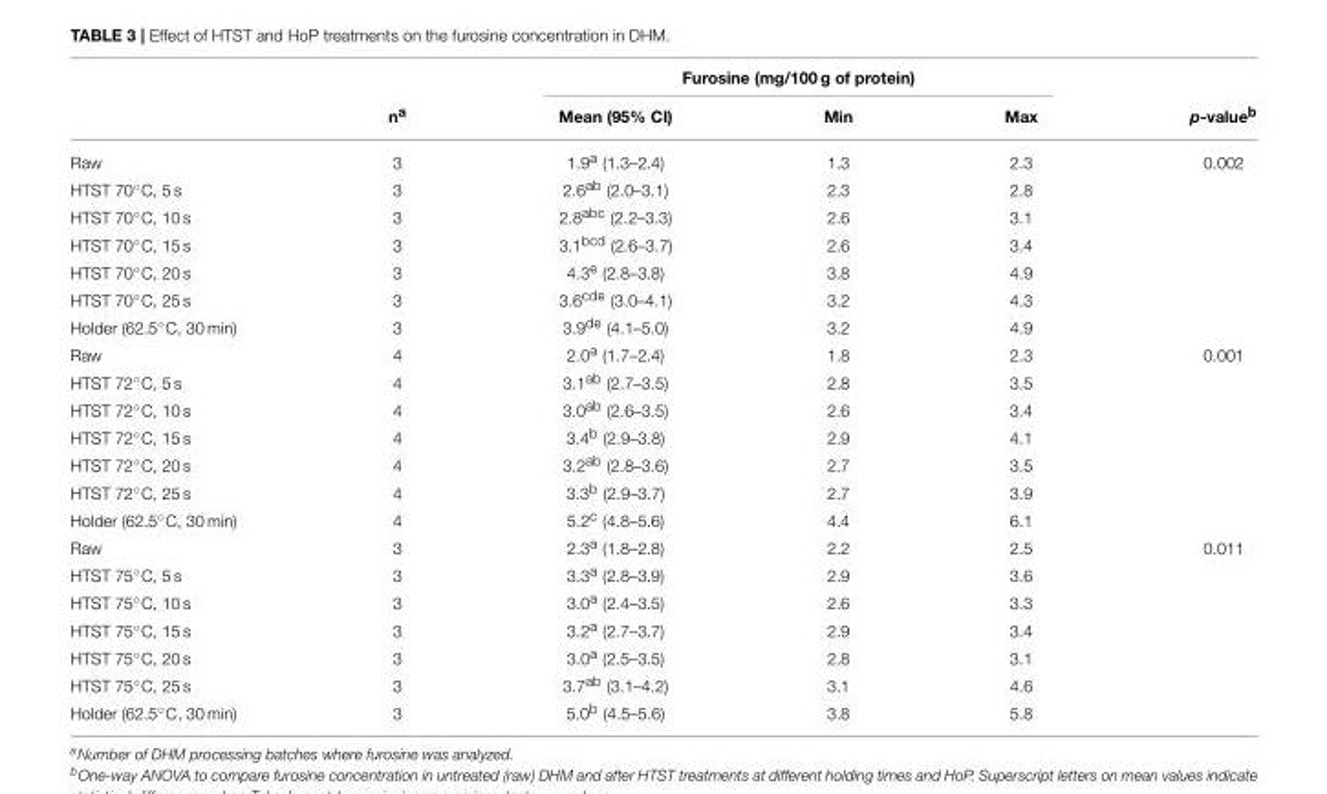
<table><thead><tr><td rowspan="2"></td><td rowspan="2">n<sup>a</sup></td><td colspan="3">Furosine (mg/100 g of protein)</td><td rowspan="2">p-value<sup>b</sup></td></tr><tr><td>Mean (95% CI)</td><td>Min</td><td>Max</td></tr></thead><tbody><tr><td>Raw</td><td>3</td><td>1.9<sup>a</sup> (1.3–2.4)</td><td>1.3</td><td>2.3</td><td>0.002</td></tr><tr><td>HTST 70◦C, 5 s</td><td>3</td><td>2.6<sup>ab</sup> (2.0–3.1)</td><td>2.3</td><td>2.8</td><td></td></tr><tr><td>HTST 70◦C, 10 s</td><td>3</td><td>2.8<sup>abc</sup> (2.2–3.3)</td><td>2.6</td><td>3.1</td><td></td></tr><tr><td>HTST 70◦C, 15 s</td><td>3</td><td>3.1<sup>bcd</sup> (2.6–3.7)</td><td>2.6</td><td>3.4</td><td></td></tr><tr><td>HTST 70◦C, 20 s</td><td>3</td><td>4.3<sup>e</sup> (2.8–3.8)</td><td>3.8</td><td>4.9</td><td></td></tr><tr><td>HTST 70◦C, 25 s</td><td>3</td><td>3.6<sup>cde</sup> (3.0–4.1)</td><td>3.2</td><td>4.3</td><td></td></tr><tr><td>Holder (62.5◦C, 30 min)</td><td>3</td><td>3.9<sup>de</sup> (4.1–5.0)</td><td>3.2</td><td>4.9</td><td></td></tr><tr><td>Raw</td><td>4</td><td>2.0<sup>a</sup> (1.7–2.4)</td><td>1.8</td><td>2.3</td><td>0.001</td></tr><tr><td>HTST 72◦C, 5 s</td><td>4</td><td>3.1<sup>ab</sup> (2.7–3.5)</td><td>2.8</td><td>3.5</td><td></td></tr><tr><td>HTST 72◦C, 10 s</td><td>4</td><td>3.0<sup>ab</sup> (2.6–3.5)</td><td>2.6</td><td>3.4</td><td></td></tr><tr><td>HTST 72◦C, 15 s</td><td>4</td><td>3.4<sup>b</sup> (2.9–3.8)</td><td>2.9</td><td>4.1</td><td></td></tr><tr><td>HTST 72◦C, 20 s</td><td>4</td><td>3.2<sup>ab</sup> (2.8–3.6)</td><td>2.7</td><td>3.5</td><td></td></tr><tr><td>HTST 72◦C, 25 s</td><td>4</td><td>3.3<sup>b</sup> (2.9–3.7)</td><td>2.7</td><td>3.9</td><td></td></tr><tr><td>Holder (62.5◦C, 30 min)</td><td>4</td><td>5.2<sup>c</sup> (4.8–5.6)</td><td>4.4</td><td>6.1</td><td></td></tr><tr><td>Raw</td><td>3</td><td>2.3<sup>a</sup> (1.8–2.8)</td><td>2.2</td><td>2.5</td><td>0.011</td></tr><tr><td>HTST 75◦C, 5 s</td><td>3</td><td>3.3<sup>a</sup> (2.8–3.9)</td><td>2.9</td><td>3.6</td><td></td></tr><tr><td>HTST 75◦C, 10 s</td><td>3</td><td>3.0<sup>a</sup> (2.4–3.5)</td><td>2.6</td><td>3.3</td><td></td></tr><tr><td>HTST 75◦C, 15 s</td><td>3</td><td>3.2<sup>a</sup> (2.7–3.7)</td><td>2.9</td><td>3.4</td><td></td></tr><tr><td>HTST 75◦C, 20 s</td><td>3</td><td>3.0<sup>a</sup> (2.5–3.5)</td><td>2.8</td><td>3.1</td><td></td></tr><tr><td>HTST 75◦C, 25 s</td><td>3</td><td>3.7<sup>ab</sup> (3.1–4.2)</td><td>3.1</td><td>4.6</td><td></td></tr><tr><td>Holder (62.5◦C, 30 min)</td><td>3</td><td>5.0<sup>b</sup> (4.5–5.6)</td><td>3.8</td><td>5.8</td><td></td></tr></tbody></table>